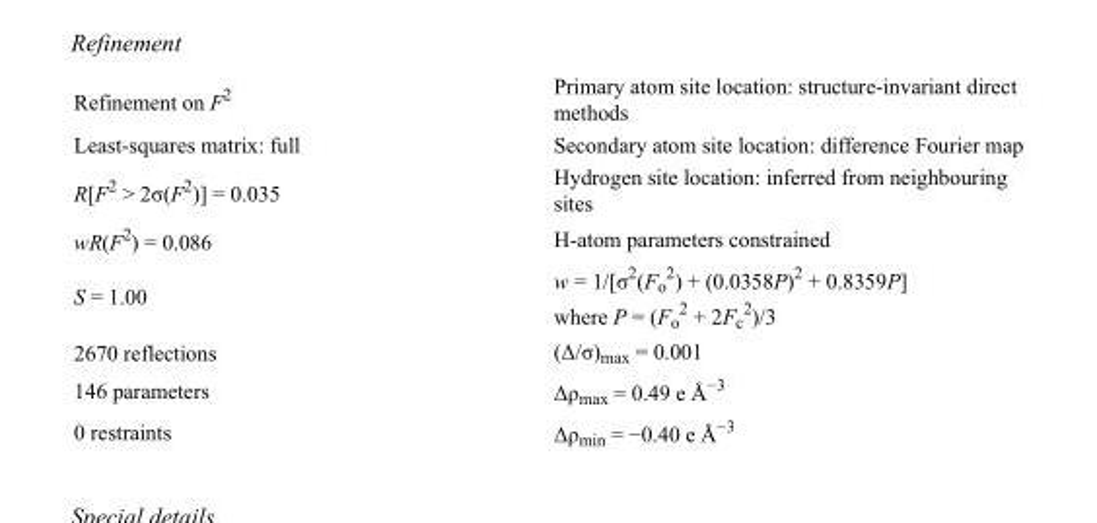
<table><tbody><tr><td>Refinement on F<sup>2</sup></td><td>Primary atom site location: structure-invariant direct methods</td></tr><tr><td>Least-squares matrix: full</td><td>Secondary atom site location: difference Fourier map</td></tr><tr><td>R[F<sup>2</sup> &gt; 2σ(F<sup>2</sup>)] = 0.035</td><td>Hydrogen site location: inferred from neighbouring sites</td></tr><tr><td>wR(F<sup>2</sup>) = 0.086</td><td>H-atom parameters constrained</td></tr><tr><td>S = 1.00</td><td>w = 1/[σ<sup>2</sup>(F<sub>o</sub> <sup>2</sup>) + (0.0358P)<sup>2</sup> + 0.8359P] where P = (F<sub>o</sub> <sup>2</sup> + 2F<sub>c</sub> <sup>2</sup>)/3</td></tr><tr><td>2670 reflections</td><td>(Δ/σ)<sub>max</sub> = 0.001</td></tr><tr><td>146 parameters</td><td>Δρ<sub>max</sub> = 0.49 e Å<sup>−3</sup></td></tr><tr><td>0 restraints</td><td>Δρmin = −0.40 e Å−3</td></tr></tbody></table>